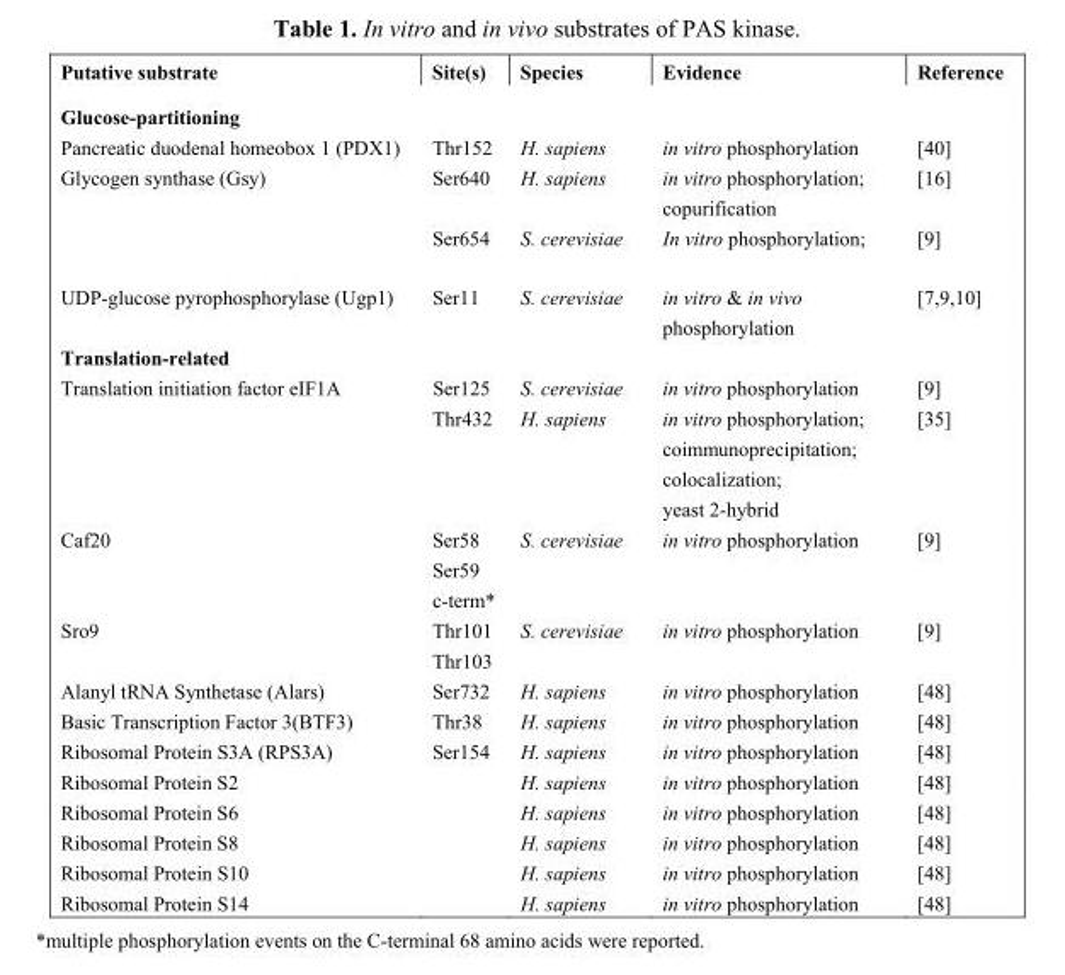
<table><thead><tr><td>Putative substrate</td><td>Site(s)</td><td>Species</td><td>Evidence</td><td>Reference</td></tr></thead><tbody><tr><td colspan="5">Glucose-partitioning</td></tr><tr><td>Pancreatic duodenal homeobox 1 (PDX1)</td><td>Thr152</td><td>H. sapiens</td><td>in vitro phosphorylation</td><td>[40]</td></tr><tr><td rowspan="2">Glycogen synthase (Gsy)</td><td>Ser640</td><td>H. sapiens</td><td>in vitro phosphorylation; copurification</td><td>[16]</td></tr><tr><td>Ser654</td><td>S. cerevisiae</td><td>In vitro phosphorylation;</td><td>[9]</td></tr><tr><td>UDP-glucose pyrophosphorylase (Ugp1)</td><td>Ser11</td><td>S. cerevisiae</td><td>in vitro &amp; in vivo phosphorylation</td><td>[7,9,10]</td></tr><tr><td colspan="5">Translation-related</td></tr><tr><td rowspan="2">Translation initiation factor eIF1A</td><td>Ser125</td><td>S. cerevisiae</td><td>in vitro phosphorylation</td><td>[9]</td></tr><tr><td>Thr432</td><td>H. sapiens</td><td>in vitro phosphorylation; coimmunoprecipitation; colocalization; yeast 2-hybrid</td><td>[35]</td></tr><tr><td>Caf20</td><td>Ser58 Ser59 c-term*</td><td>S. cerevisiae</td><td>in vitro phosphorylation</td><td>[9]</td></tr><tr><td>Sro9</td><td>Thr101 Thr103</td><td>S. cerevisiae</td><td>in vitro phosphorylation</td><td>[9]</td></tr><tr><td>Alanyl tRNA Synthetase (Alars)</td><td>Ser732</td><td>H. sapiens</td><td>in vitro phosphorylation</td><td>[48]</td></tr><tr><td>Basic Transcription Factor 3(BTF3)</td><td>Thr38</td><td>H. sapiens</td><td>in vitro phosphorylation</td><td>[48]</td></tr><tr><td>Ribosomal Protein S3A (RPS3A)</td><td>Ser154</td><td>H. sapiens</td><td>in vitro phosphorylation</td><td>[48]</td></tr><tr><td>Ribosomal Protein S2</td><td></td><td>H. sapiens</td><td>in vitro phosphorylation</td><td>[48]</td></tr><tr><td>Ribosomal Protein S6</td><td></td><td>H. sapiens</td><td>in vitro phosphorylation</td><td>[48]</td></tr><tr><td>Ribosomal Protein S8</td><td></td><td>H. sapiens</td><td>in vitro phosphorylation</td><td>[48]</td></tr><tr><td>Ribosomal Protein S10</td><td></td><td>H. sapiens</td><td>in vitro phosphorylation</td><td>[48]</td></tr><tr><td>Ribosomal Protein S14</td><td></td><td>H. sapiens</td><td>in vitro phosphorylation</td><td>[48]</td></tr></tbody></table>